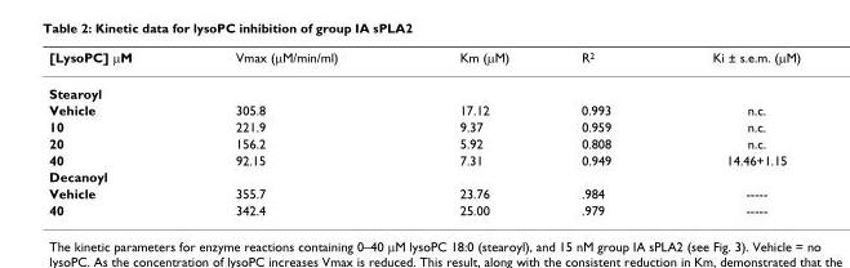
<table><thead><tr><td>[LysoPC] μM</td><td>Vmax (μM/min/ml)</td><td>Km (μM)</td><td>R<sup>2</sup></td><td>Ki ± s.e.m. (μM)</td></tr></thead><tbody><tr><td colspan="5">Stearoyl</td></tr><tr><td>Vehicle</td><td>305.8</td><td>17.12</td><td>0.993</td><td>n.c.</td></tr><tr><td>10</td><td>221.9</td><td>9.37</td><td>0.959</td><td>n.c.</td></tr><tr><td>20</td><td>156.2</td><td>5.92</td><td>0.808</td><td>n.c.</td></tr><tr><td>40</td><td>92.15</td><td>7.31</td><td>0.949</td><td>14.46+1.15</td></tr><tr><td colspan="5">Decanoyl</td></tr><tr><td>Vehicle</td><td>355.7</td><td>23.76</td><td>.984</td><td>-----</td></tr><tr><td>40</td><td>342.4</td><td>25.00</td><td>.979</td><td>-----</td></tr></tbody></table>